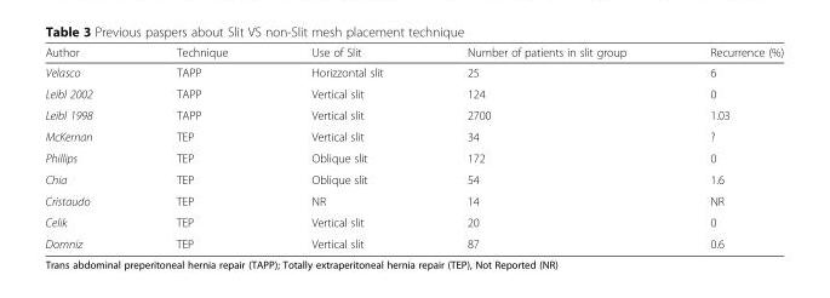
<table><thead><tr><td>Author</td><td>Technique</td><td>Use of Slit</td><td>Number of patients in slit group</td><td>Recurrence (%)</td></tr></thead><tbody><tr><td>Velasco</td><td>TAPP</td><td>Horizzontal slit</td><td>25</td><td>6</td></tr><tr><td>Leibl 2002</td><td>TAPP</td><td>Vertical slit</td><td>124</td><td>0</td></tr><tr><td>Leibl 1998</td><td>TAPP</td><td>Vertical slit</td><td>2700</td><td>1.03</td></tr><tr><td>McKernan</td><td>TEP</td><td>Vertical slit</td><td>34</td><td>?</td></tr><tr><td>Phillips</td><td>TEP</td><td>Oblique slit</td><td>172</td><td>0</td></tr><tr><td>Chia</td><td>TEP</td><td>Oblique slit</td><td>54</td><td>1.6</td></tr><tr><td>Cristaudo</td><td>TEP</td><td>NR</td><td>14</td><td>NR</td></tr><tr><td>Celik</td><td>TEP</td><td>Vertical slit</td><td>20</td><td>0</td></tr><tr><td>Domniz</td><td>TEP</td><td>Vertical slit</td><td>87</td><td>0.6</td></tr></tbody></table>